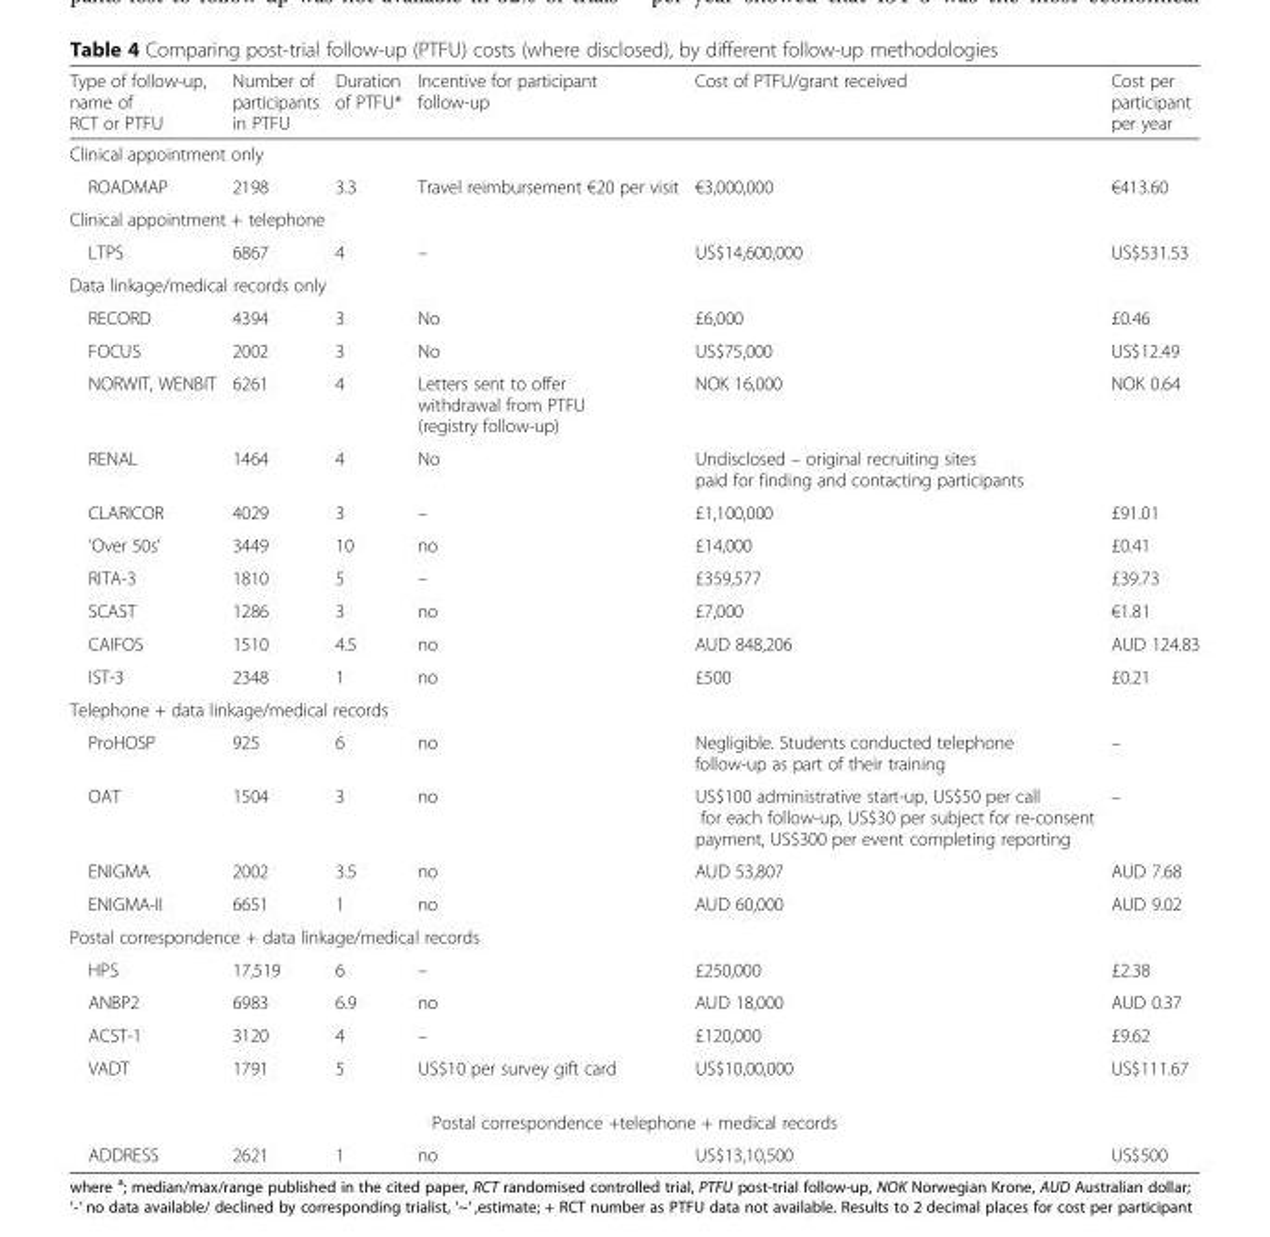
<table><thead><tr><td>Type of follow-up, name of RCT or PTFU</td><td>Number of participants in PTFU</td><td>Duration of PTFU*</td><td>Incentive for participant follow-up</td><td>Cost of PTFU/grant received</td><td>Cost per participant per year</td></tr></thead><tbody><tr><td colspan="6">Clinical appointment only</td></tr><tr><td>ROADMAP</td><td>2198</td><td>3.3</td><td>Travel reimbursement €20 per visit</td><td>€3,000,000</td><td>€413.60</td></tr><tr><td colspan="6">Clinical appointment + telephone</td></tr><tr><td>LTPS</td><td>6867</td><td>4</td><td>–</td><td>US$14,600,000</td><td>US$531.53</td></tr><tr><td colspan="6">Data linkage/medical records only</td></tr><tr><td>RECORD</td><td>4394</td><td>3</td><td>No</td><td>£6,000</td><td>£0.46</td></tr><tr><td>FOCUS</td><td>2002</td><td>3</td><td>No</td><td>US$75,000</td><td>US$12.49</td></tr><tr><td>NORWIT, WENBIT</td><td>6261</td><td>4</td><td>Letters sent to offer withdrawal from PTFU (registry follow-up)</td><td>NOK 16,000</td><td>NOK 0.64</td></tr><tr><td>RENAL</td><td>1464</td><td>4</td><td>No</td><td>Undisclosed – original recruiting sites paid for finding and contacting participants</td><td></td></tr><tr><td>CLARICOR</td><td>4029</td><td>3</td><td>–</td><td>£1,100,000</td><td>£91.01</td></tr><tr><td>‘Over 50s’</td><td>3449</td><td>10</td><td>no</td><td>£14,000</td><td>£0.41</td></tr><tr><td>RITA-3</td><td>1810</td><td>5</td><td>–</td><td>£359,577</td><td>£39.73</td></tr><tr><td>SCAST</td><td>1286</td><td>3</td><td>no</td><td>£7,000</td><td>€1.81</td></tr><tr><td>CAIFOS</td><td>1510</td><td>4.5</td><td>no</td><td>AUD 848,206</td><td>AUD 124.83</td></tr><tr><td>IST-3</td><td>2348</td><td>1</td><td>no</td><td>£500</td><td>£0.21</td></tr><tr><td colspan="6">Telephone + data linkage/medical records</td></tr><tr><td>ProHOSP</td><td>925</td><td>6</td><td>no</td><td>Negligible. Students conducted telephone follow-up as part of their training</td><td>–</td></tr><tr><td>OAT</td><td>1504</td><td>3</td><td>no</td><td>US$100 administrative start-up, US$50 per call for each follow-up, US$30 per subject for re-consent payment, US$300 per event completing reporting</td><td>–</td></tr><tr><td>ENIGMA</td><td>2002</td><td>3.5</td><td>no</td><td>AUD 53,807</td><td>AUD 7.68</td></tr><tr><td>ENIGMA-II</td><td>6651</td><td>1</td><td>no</td><td>AUD 60,000</td><td>AUD 9.02</td></tr><tr><td colspan="6">Postal correspondence + data linkage/medical records</td></tr><tr><td>HPS</td><td>17,519</td><td>6</td><td>–</td><td>£250,000</td><td>£2.38</td></tr><tr><td>ANBP2</td><td>6983</td><td>6.9</td><td>no</td><td>AUD 18,000</td><td>AUD 0.37</td></tr><tr><td>ACST-1</td><td>3120</td><td>4</td><td>–</td><td>£120,000</td><td>£9.62</td></tr><tr><td>VADT</td><td>1791</td><td>5</td><td>US$10 per survey gift card</td><td>US$10,00,000</td><td>US$111.67</td></tr><tr><td colspan="6">Postal correspondence +telephone + medical records</td></tr><tr><td>ADDRESS</td><td>2621</td><td>1</td><td>no</td><td>US$13,10,500</td><td>US$500</td></tr></tbody></table>